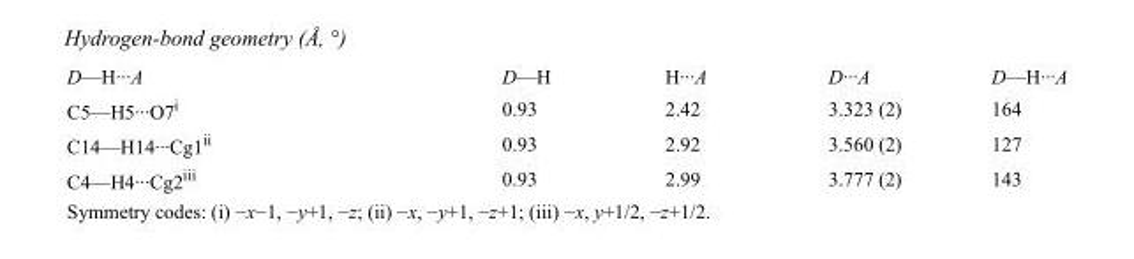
<table><tbody><tr><td>D—H···A</td><td>D—H</td><td>H···A</td><td>D···A</td><td>D—H···A</td></tr><tr><td>C5—H5···O7<sup>i</sup></td><td>0.93</td><td>2.42</td><td>3.323 (2)</td><td>164</td></tr><tr><td>C14—H14···Cg1<sup>ii</sup></td><td>0.93</td><td>2.92</td><td>3.560 (2)</td><td>127</td></tr><tr><td>C4—H4···Cg2<sup>iii</sup></td><td>0.93</td><td>2.99</td><td>3.777 (2)</td><td>143</td></tr></tbody></table>